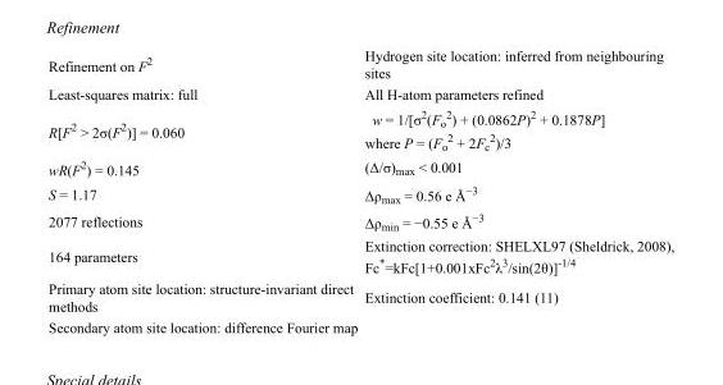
<table><tbody><tr><td>Refinement on F<sup>2</sup></td><td>Hydrogen site location: inferred from neighbouring sites</td></tr><tr><td>Least-squares matrix: full</td><td>All H-atom parameters refined</td></tr><tr><td>R[F<sup>2</sup> &gt; 2σ(F<sup>2</sup>)] = 0.060</td><td>w = 1/[σ<sup>2</sup>(F<sub>o</sub> <sup>2</sup>) + (0.0862P)<sup>2</sup> + 0.1878P] where P = (F<sub>o</sub> <sup>2</sup> + 2F<sub>c</sub> <sup>2</sup>)/3</td></tr><tr><td>wR(F<sup>2</sup>) = 0.145</td><td>(Δ/σ)<sub>max</sub> &lt; 0.001</td></tr><tr><td>S = 1.17</td><td>Δρ<sub>max</sub> = 0.56 e Å<sup>−3</sup></td></tr><tr><td>2077 reflections</td><td>Δρ<sub>min</sub> = −0.55 e Å<sup>−3</sup></td></tr><tr><td>164 parameters</td><td>Extinction correction: SHELXL97 (Sheldrick, 2008), Fc*=kFc[1+0.001xFc<sup>2</sup>λ<sup>3</sup>/sin(2θ)]<sup>-1/4</sup></td></tr><tr><td>Primary atom site location: structure-invariant direct methods</td><td>Extinction coefficient: 0.141 (11)</td></tr><tr><td>Secondary atom site location: difference Fourier map</td><td></td></tr></tbody></table>